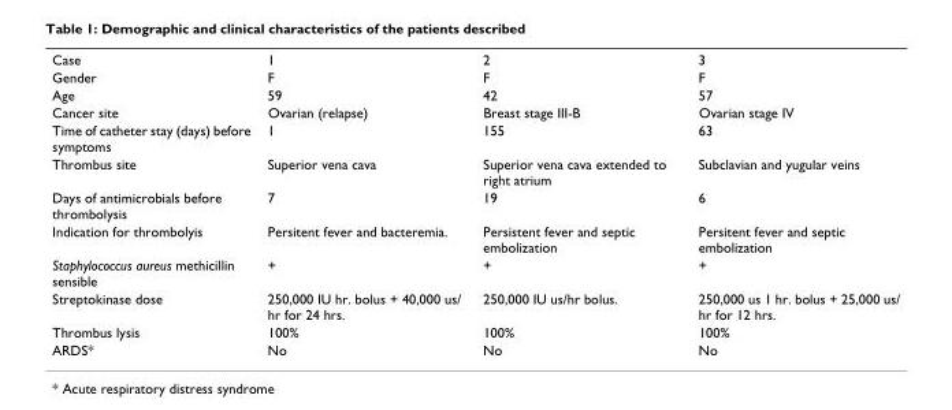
<table><tbody><tr><td>Case</td><td>1</td><td>2</td><td>3</td></tr><tr><td>Gender</td><td>F</td><td>F</td><td>F</td></tr><tr><td>Age</td><td>59</td><td>42</td><td>57</td></tr><tr><td>Cancer site</td><td>Ovarian (relapse)</td><td>Breast stage III-B</td><td>Ovarian stage IV</td></tr><tr><td>Time of catheter stay (days) before symptoms</td><td>1</td><td>155</td><td>63</td></tr><tr><td>Thrombus site</td><td>Superior vena cava</td><td>Superior vena cava extended to right atrium</td><td>Subclavian and yugular veins</td></tr><tr><td>Days of antimicrobials before thrombolysis</td><td>7</td><td>19</td><td>6</td></tr><tr><td>Indication for thrombolyis</td><td>Persitent fever and bacteremia.</td><td>Persistent fever and septic embolization</td><td>Persitent fever and septic embolization</td></tr><tr><td>Staphylococcus aureus methicillin sensible</td><td>+</td><td>+</td><td>+</td></tr><tr><td>Streptokinase dose</td><td>250,000 IU hr. bolus + 40,000 us/ hr for 24 hrs.</td><td>250,000 IU us/hr bolus.</td><td>250,000 us 1 hr. bolus + 25,000 us/ hr for 12 hrs.</td></tr><tr><td>Thrombus lysis</td><td>100%</td><td>100%</td><td>100%</td></tr><tr><td>ARDS*</td><td>No</td><td>No</td><td>No</td></tr></tbody></table>